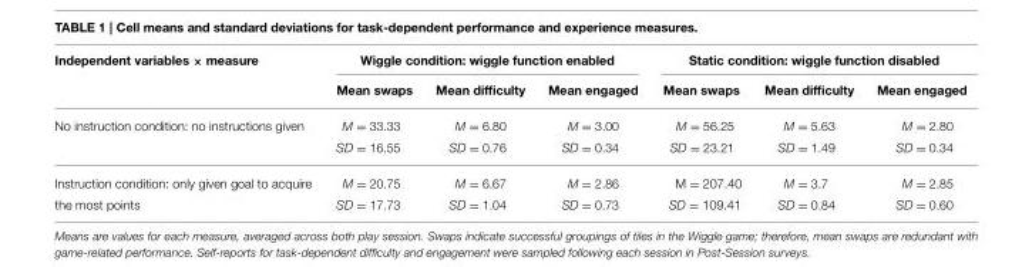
<table><thead><tr><td rowspan="2">Independent variables × measure</td><td colspan="3">Wiggle condition: wiggle function enabled</td><td colspan="3">Static condition: wiggle function disabled</td></tr><tr><td>Mean swaps</td><td>Mean difficulty</td><td>Mean engaged</td><td>Mean swaps</td><td>Mean difficulty</td><td>Mean engaged</td></tr></thead><tbody><tr><td rowspan="2">No instruction condition: no instructions given</td><td>M = 33.33</td><td>M = 6.80</td><td>M = 3.00</td><td>M = 56.25</td><td>M = 5.63</td><td>M = 2.80</td></tr><tr><td>SD = 16.55</td><td>SD = 0.76</td><td>SD = 0.34</td><td>SD = 23.21</td><td>SD = 1.49</td><td>SD = 0.34</td></tr><tr><td>Instruction condition: only given goal to acquire</td><td>M = 20.75</td><td>M = 6.67</td><td>M = 2.86</td><td>M = 207.40</td><td>M = 3.7</td><td>M = 2.85</td></tr><tr><td>the most points</td><td>SD = 17.73</td><td>SD = 1.04</td><td>SD = 0.73</td><td>SD = 109.41</td><td>SD = 0.84</td><td>SD = 0.60</td></tr></tbody></table>